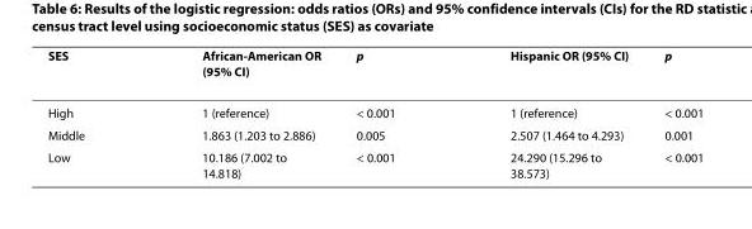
<table><thead><tr><td>SES</td><td>African-American OR (95% CI)</td><td>p</td><td>Hispanic OR (95% CI)</td><td>p</td></tr></thead><tbody><tr><td>High</td><td>1 (reference)</td><td>&lt; 0.001</td><td>1 (reference)</td><td>&lt; 0.001</td></tr><tr><td>Middle</td><td>1.863 (1.203 to 2.886)</td><td>0.005</td><td>2.507 (1.464 to 4.293)</td><td>0.001</td></tr><tr><td>Low</td><td>10.186 (7.002 to 14.818)</td><td>&lt; 0.001</td><td>24.290 (15.296 to 38.573)</td><td>&lt; 0.001</td></tr></tbody></table>